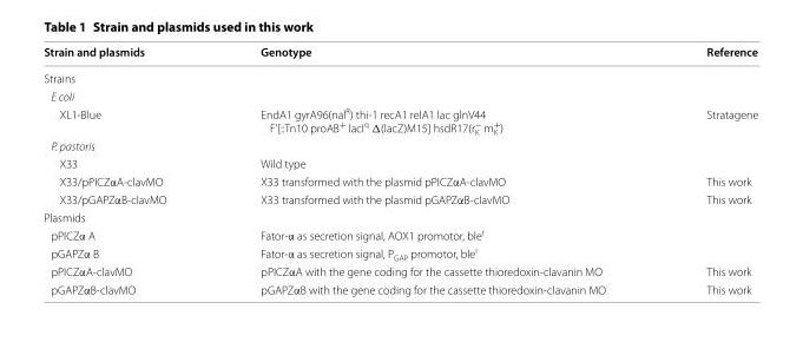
<table><thead><tr><td>Strain and plasmids</td><td>Genotype</td><td>Reference</td></tr></thead><tbody><tr><td colspan="3">Strains</td></tr><tr><td colspan="3">E coli</td></tr><tr><td>XL1-Blue</td><td>EndA1 gyrA96(nal<sup>R</sup>) thi-1 recA1 relA1 lac glnV44 F’[::Tn10 proAB<sup>+</sup> lacI<sup>q</sup> Δ(lacZ)M15] hsdR17(r<sub>K</sub> <sup>−</sup> m<sub>K</sub> <sup>+</sup>)</td><td>Stratagene</td></tr><tr><td colspan="3">P. pastoris</td></tr><tr><td>X33</td><td>Wild type</td><td></td></tr><tr><td>X33/pPICZαA-clavMO</td><td>X33 transformed with the plasmid pPICZαA-clavMO</td><td>This work</td></tr><tr><td>X33/pGAPZαB-clavMO</td><td>X33 transformed with the plasmid pGAPZαB-clavMO</td><td>This work</td></tr><tr><td colspan="3">Plasmids</td></tr><tr><td>pPICZα A</td><td>Fator-α as secretion signal, AOX1 promotor, ble<sup>r</sup></td><td></td></tr><tr><td>pGAPZα B</td><td>Fator-α as secretion signal, P<sub>GAP</sub> promotor, ble<sup>r</sup></td><td></td></tr><tr><td>pPICZαA-clavMO</td><td>pPICZαA with the gene coding for the cassette thioredoxin-clavanin MO</td><td>This work</td></tr><tr><td>pGAPZαB-clavMO</td><td>pGAPZαB with the gene coding for the cassette thioredoxin-clavanin MO</td><td>This work</td></tr></tbody></table>